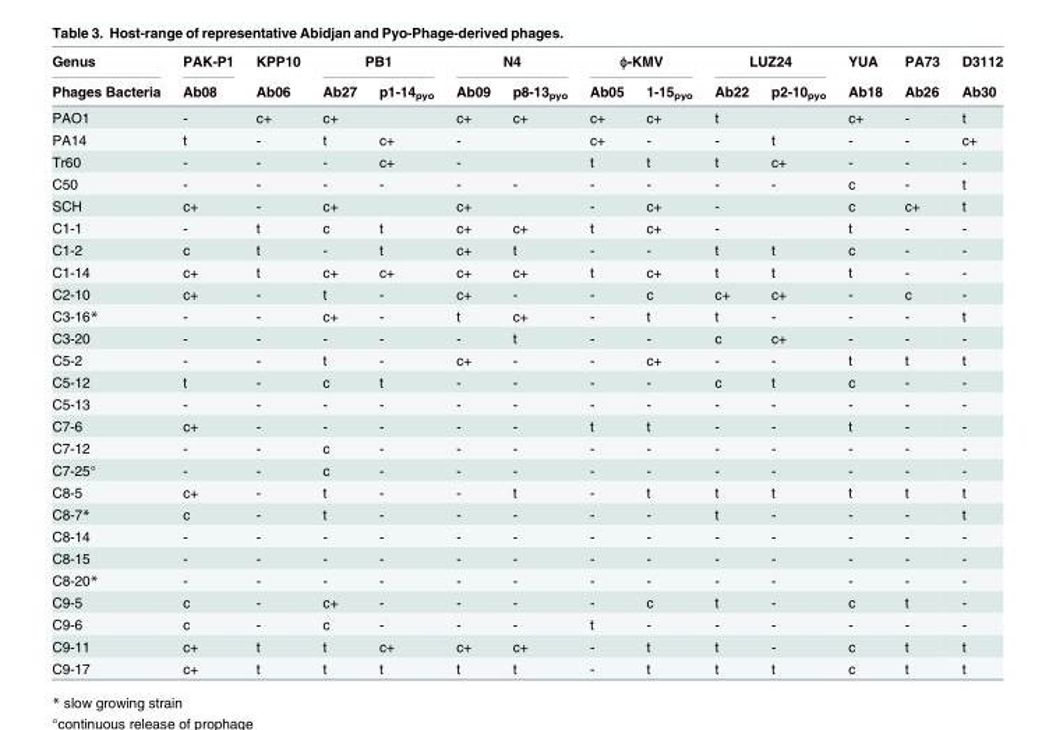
<table><thead><tr><td rowspan="2">Genus Phages Bacteria</td><td rowspan="2">PAK-P1 Ab08</td><td rowspan="2">KPP10 Ab06</td><td colspan="2">PB1</td><td colspan="2">N4</td><td colspan="2">ɸ-KMV</td><td colspan="2">LUZ24</td><td rowspan="2">YUA Ab18</td><td rowspan="2">PA73 Ab26</td><td rowspan="2">D3112 Ab30</td></tr><tr><td>Ab27</td><td>p1-14<sub>pyo</sub></td><td>Ab09</td><td>p8-13<sub>pyo</sub></td><td>Ab05</td><td>1-15<sub>pyo</sub></td><td>Ab22</td><td>p2-10<sub>pyo</sub></td></tr></thead><tbody><tr><td>PAO1</td><td>-</td><td>c+</td><td>c+</td><td></td><td>c+</td><td>c+</td><td>c+</td><td>c+</td><td>t</td><td></td><td>c+</td><td>-</td><td>t</td></tr><tr><td>PA14</td><td>t</td><td>-</td><td>t</td><td>c+</td><td>-</td><td></td><td>c+</td><td>-</td><td>-</td><td>t</td><td>-</td><td>-</td><td>c+</td></tr><tr><td>Tr60</td><td>-</td><td>-</td><td>-</td><td>c+</td><td>-</td><td></td><td>t</td><td>t</td><td>t</td><td>c+</td><td>-</td><td>-</td><td>-</td></tr><tr><td>C50</td><td>-</td><td>-</td><td>-</td><td>-</td><td>-</td><td>-</td><td>-</td><td>-</td><td>-</td><td>-</td><td>c</td><td>-</td><td>t</td></tr><tr><td>SCH</td><td>c+</td><td>-</td><td>c+</td><td></td><td>c+</td><td></td><td>-</td><td>c+</td><td>-</td><td></td><td>c</td><td>c+</td><td>t</td></tr><tr><td>C1-1</td><td>-</td><td>t</td><td>c</td><td>t</td><td>c+</td><td>c+</td><td>t</td><td>c+</td><td>-</td><td></td><td>t</td><td>-</td><td>-</td></tr><tr><td>C1-2</td><td>c</td><td>t</td><td>-</td><td>t</td><td>c+</td><td>t</td><td>-</td><td>-</td><td>t</td><td>t</td><td>c</td><td>-</td><td>-</td></tr><tr><td>C1-14</td><td>c+</td><td>t</td><td>c+</td><td>c+</td><td>c+</td><td>c+</td><td>t</td><td>c+</td><td>t</td><td>t</td><td>t</td><td>-</td><td>-</td></tr><tr><td>C2-10</td><td>c+</td><td>-</td><td>t</td><td>-</td><td>c+</td><td>-</td><td>-</td><td>c</td><td>c+</td><td>c+</td><td>-</td><td>c</td><td>-</td></tr><tr><td>C3-16*</td><td>-</td><td>-</td><td>c+</td><td>-</td><td>t</td><td>c+</td><td>-</td><td>t</td><td>t</td><td>-</td><td>-</td><td>-</td><td>t</td></tr><tr><td>C3-20</td><td>-</td><td>-</td><td>-</td><td>-</td><td>-</td><td>t</td><td>-</td><td>-</td><td>c</td><td>c+</td><td>-</td><td>-</td><td>-</td></tr><tr><td>C5-2</td><td>-</td><td>-</td><td>t</td><td>-</td><td>c+</td><td>-</td><td>-</td><td>c+</td><td>-</td><td>-</td><td>t</td><td>t</td><td>t</td></tr><tr><td>C5-12</td><td>t</td><td>-</td><td>c</td><td>t</td><td>-</td><td>-</td><td>-</td><td>-</td><td>c</td><td>t</td><td>c</td><td>-</td><td>-</td></tr><tr><td>C5-13</td><td>-</td><td>-</td><td>-</td><td>-</td><td>-</td><td>-</td><td>-</td><td>-</td><td>-</td><td>-</td><td>-</td><td>-</td><td>-</td></tr><tr><td>C7-6</td><td>c+</td><td>-</td><td>-</td><td>-</td><td>-</td><td>-</td><td>t</td><td>t</td><td>-</td><td>-</td><td>t</td><td>-</td><td>-</td></tr><tr><td>C7-12</td><td>-</td><td>-</td><td>c</td><td>-</td><td>-</td><td>-</td><td>-</td><td>-</td><td>-</td><td>-</td><td>-</td><td>-</td><td>-</td></tr><tr><td>C7-25°</td><td>-</td><td>-</td><td>c</td><td>-</td><td>-</td><td>-</td><td>-</td><td>-</td><td>-</td><td>-</td><td>-</td><td>-</td><td>-</td></tr><tr><td>C8-5</td><td>c+</td><td>-</td><td>t</td><td>-</td><td>-</td><td>t</td><td>-</td><td>t</td><td>t</td><td>t</td><td>t</td><td>t</td><td>t</td></tr><tr><td>C8-7*</td><td>c</td><td>-</td><td>t</td><td>-</td><td>-</td><td>-</td><td>-</td><td>-</td><td>t</td><td>-</td><td>-</td><td>-</td><td>t</td></tr><tr><td>C8-14</td><td>-</td><td>-</td><td>-</td><td>-</td><td>-</td><td>-</td><td>-</td><td>-</td><td>-</td><td>-</td><td>-</td><td>-</td><td>-</td></tr><tr><td>C8-15</td><td>-</td><td>-</td><td>-</td><td>-</td><td>-</td><td>-</td><td>-</td><td>-</td><td>-</td><td>-</td><td>-</td><td>-</td><td>-</td></tr><tr><td>C8-20*</td><td>-</td><td>-</td><td>-</td><td>-</td><td>-</td><td>-</td><td>-</td><td>-</td><td>-</td><td>-</td><td>-</td><td>-</td><td>-</td></tr><tr><td>C9-5</td><td>c</td><td>-</td><td>c+</td><td>-</td><td>-</td><td>-</td><td>-</td><td>c</td><td>t</td><td>-</td><td>c</td><td>t</td><td>-</td></tr><tr><td>C9-6</td><td>c</td><td>-</td><td>c</td><td>-</td><td>-</td><td>-</td><td>t</td><td>-</td><td>-</td><td>-</td><td>-</td><td>-</td><td>-</td></tr><tr><td>C9-11</td><td>c+</td><td>t</td><td>t</td><td>c+</td><td>c+</td><td>c+</td><td>-</td><td>t</td><td>t</td><td>-</td><td>c</td><td>t</td><td>t</td></tr><tr><td>C9-17</td><td>c+</td><td>t</td><td>t</td><td>t</td><td>t</td><td>t</td><td>-</td><td>t</td><td>t</td><td>t</td><td>c</td><td>t</td><td>t</td></tr></tbody></table>